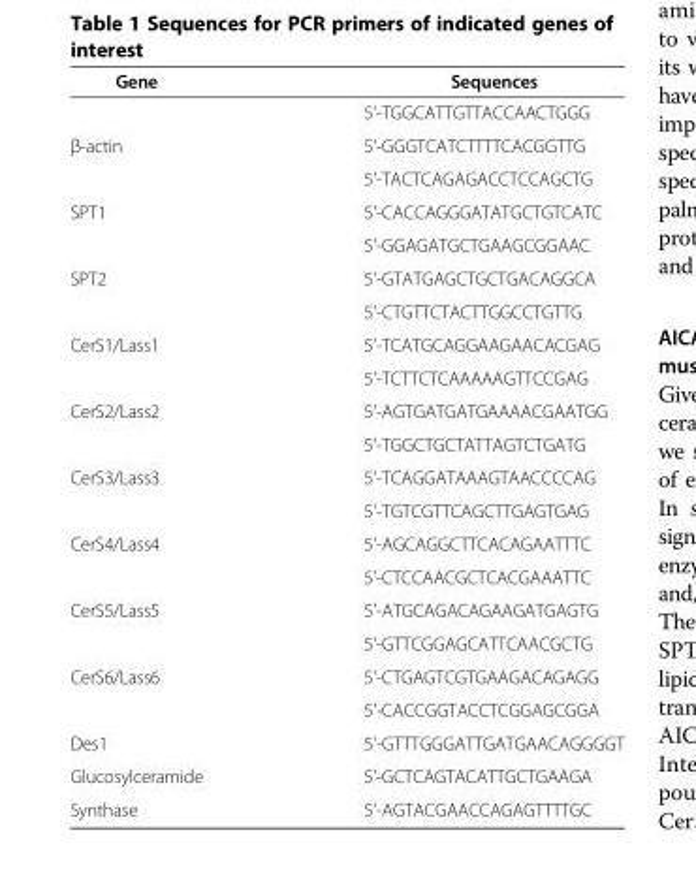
<table><thead><tr><td>Gene</td><td>Sequences</td></tr></thead><tbody><tr><td></td><td>5’-TGGCATTGTTACCAACTGGG</td></tr><tr><td rowspan="2">β-actin</td><td>5’-GGGTCATCTTTTCACGGTTG</td></tr><tr><td>5’-TACTCAGAGACCTCCAGCTG</td></tr><tr><td rowspan="2">SPT1</td><td>5’-CACCAGGGATATGCTGTCATC</td></tr><tr><td>5’-GGAGATGCTGAAGCGGAAC</td></tr><tr><td rowspan="2">SPT2</td><td>5’-GTATGAGCTGCTGACAGGCA</td></tr><tr><td>5’-CTGTTCTACTTGGCCTGTTG</td></tr><tr><td rowspan="2">CerS1/Lass1</td><td>5’-TCATGCAGGAAGAACACGAG</td></tr><tr><td>5’-TCTTCTCAAAAAGTTCCGAG</td></tr><tr><td rowspan="2">CerS2/Lass2</td><td>5’-AGTGATGATGAAAACGAATGG</td></tr><tr><td>5’-TGGCTGCTATTAGTCTGATG</td></tr><tr><td rowspan="2">CerS3/Lass3</td><td>5’-TCAGGATAAAGTAACCCCAG</td></tr><tr><td>5’-TGTCGTTCAGCTTGAGTGAG</td></tr><tr><td rowspan="2">CerS4/Lass4</td><td>5’-AGCAGGCTTCACAGAATTTC</td></tr><tr><td>5’-CTCCAACGCTCACGAAATTC</td></tr><tr><td rowspan="2">CerS5/Lass5</td><td>5’-ATGCAGACAGAAGATGAGTG</td></tr><tr><td>5’-GTTCGGAGCATTCAACGCTG</td></tr><tr><td rowspan="2">CerS6/Lass6</td><td>5’-CTGAGTCGTGAAGACAGAGG</td></tr><tr><td>5&#x27;-CACCGGTACCTCGGAGCGGA</td></tr><tr><td>Des1</td><td>5&#x27;-GTTTGGGATTGATGAACAGGGGT</td></tr><tr><td>Glucosylceramide</td><td>5’-GCTCAGTACATTGCTGAAGA</td></tr><tr><td>Synthase</td><td>5’-AGTACGAACCAGAGTTTTGC</td></tr></tbody></table>